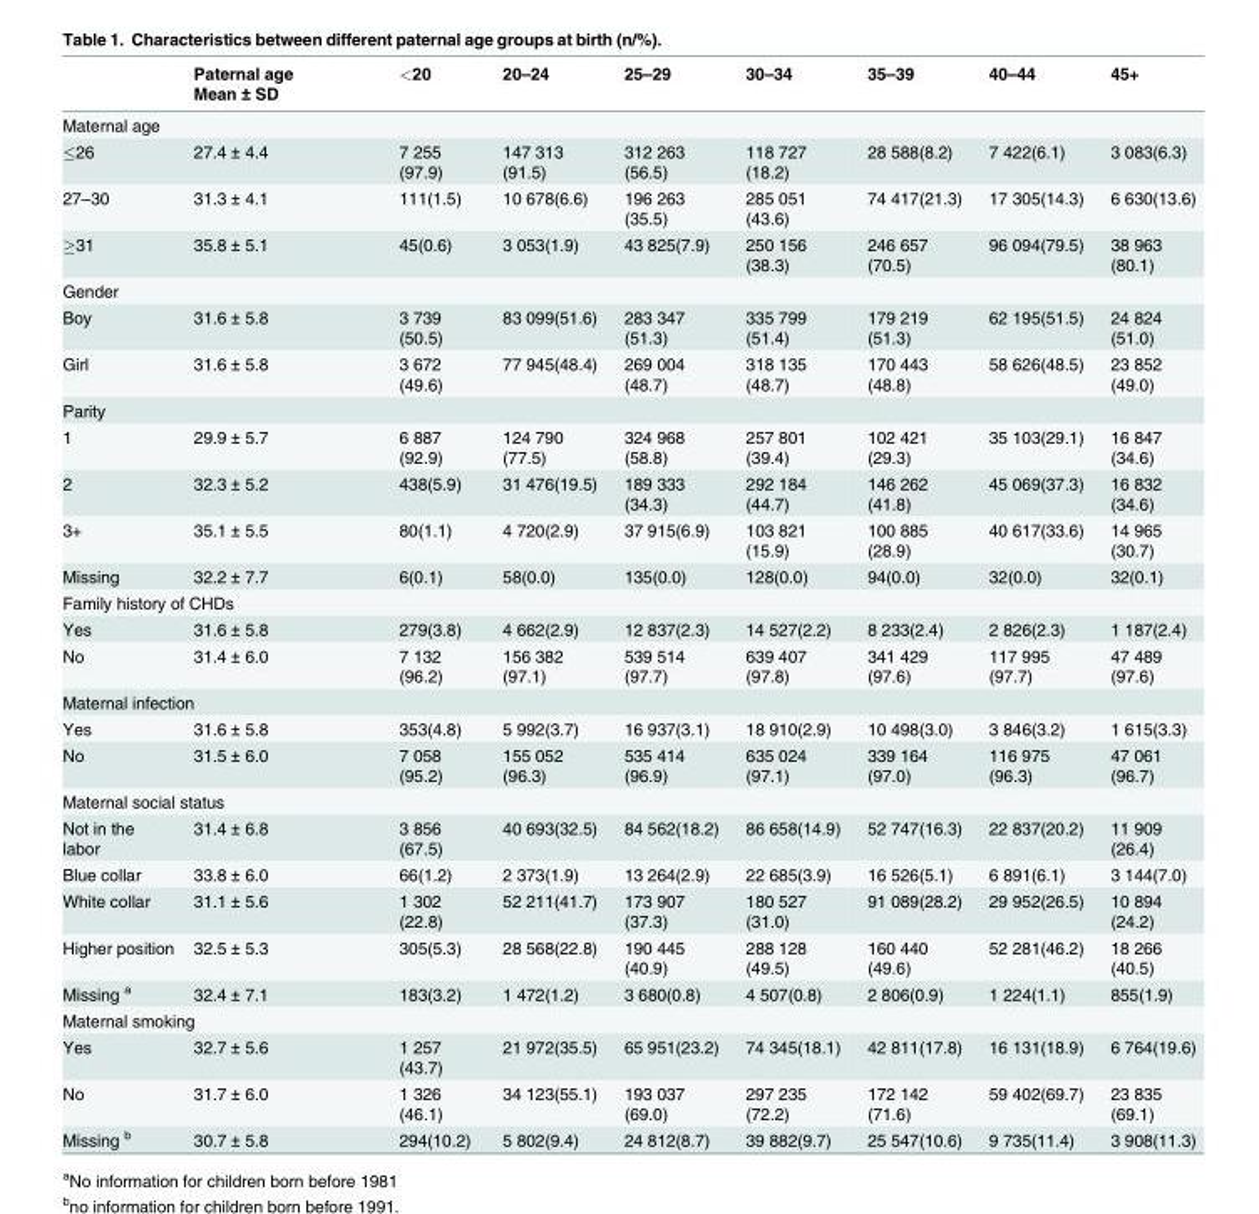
<table><thead><tr><td></td><td>Paternal age Mean ± SD</td><td>&lt;20</td><td>20–24</td><td>25–29</td><td>30–34</td><td>35–39</td><td>40–44</td><td>45+</td></tr></thead><tbody><tr><td colspan="9">Maternal age</td></tr><tr><td>≤26</td><td>27.4 ± 4.4</td><td>7 255 (97.9)</td><td>147 313 (91.5)</td><td>312 263 (56.5)</td><td>118 727 (18.2)</td><td>28 588(8.2)</td><td>7 422(6.1)</td><td>3 083(6.3)</td></tr><tr><td>27–30</td><td>31.3 ± 4.1</td><td>111(1.5)</td><td>10 678(6.6)</td><td>196 263 (35.5)</td><td>285 051 (43.6)</td><td>74 417(21.3)</td><td>17 305(14.3)</td><td>6 630(13.6)</td></tr><tr><td>≥31</td><td>35.8 ± 5.1</td><td>45(0.6)</td><td>3 053(1.9)</td><td>43 825(7.9)</td><td>250 156 (38.3)</td><td>246 657 (70.5)</td><td>96 094(79.5)</td><td>38 963 (80.1)</td></tr><tr><td colspan="9">Gender</td></tr><tr><td>Boy</td><td>31.6 ± 5.8</td><td>3 739 (50.5)</td><td>83 099(51.6)</td><td>283 347 (51.3)</td><td>335 799 (51.4)</td><td>179 219 (51.3)</td><td>62 195(51.5)</td><td>24 824 (51.0)</td></tr><tr><td>Girl</td><td>31.6 ± 5.8</td><td>3 672 (49.6)</td><td>77 945(48.4)</td><td>269 004 (48.7)</td><td>318 135 (48.7)</td><td>170 443 (48.8)</td><td>58 626(48.5)</td><td>23 852 (49.0)</td></tr><tr><td colspan="9">Parity</td></tr><tr><td>1</td><td>29.9 ± 5.7</td><td>6 887 (92.9)</td><td>124 790 (77.5)</td><td>324 968 (58.8)</td><td>257 801 (39.4)</td><td>102 421 (29.3)</td><td>35 103(29.1)</td><td>16 847 (34.6)</td></tr><tr><td>2</td><td>32.3 ± 5.2</td><td>438(5.9)</td><td>31 476(19.5)</td><td>189 333 (34.3)</td><td>292 184 (44.7)</td><td>146 262 (41.8)</td><td>45 069(37.3)</td><td>16 832 (34.6)</td></tr><tr><td>3+</td><td>35.1 ± 5.5</td><td>80(1.1)</td><td>4 720(2.9)</td><td>37 915(6.9)</td><td>103 821 (15.9)</td><td>100 885 (28.9)</td><td>40 617(33.6)</td><td>14 965 (30.7)</td></tr><tr><td>Missing</td><td>32.2 ± 7.7</td><td>6(0.1)</td><td>58(0.0)</td><td>135(0.0)</td><td>128(0.0)</td><td>94(0.0)</td><td>32(0.0)</td><td>32(0.1)</td></tr><tr><td colspan="9">Family history of CHDs</td></tr><tr><td>Yes</td><td>31.6 ± 5.8</td><td>279(3.8)</td><td>4 662(2.9)</td><td>12 837(2.3)</td><td>14 527(2.2)</td><td>8 233(2.4)</td><td>2 826(2.3)</td><td>1 187(2.4)</td></tr><tr><td>No</td><td>31.4 ± 6.0</td><td>7 132 (96.2)</td><td>156 382 (97.1)</td><td>539 514 (97.7)</td><td>639 407 (97.8)</td><td>341 429 (97.6)</td><td>117 995 (97.7)</td><td>47 489 (97.6)</td></tr><tr><td colspan="9">Maternal infection</td></tr><tr><td>Yes</td><td>31.6 ± 5.8</td><td>353(4.8)</td><td>5 992(3.7)</td><td>16 937(3.1)</td><td>18 910(2.9)</td><td>10 498(3.0)</td><td>3 846(3.2)</td><td>1 615(3.3)</td></tr><tr><td>No</td><td>31.5 ± 6.0</td><td>7 058 (95.2)</td><td>155 052 (96.3)</td><td>535 414 (96.9)</td><td>635 024 (97.1)</td><td>339 164 (97.0)</td><td>116 975 (96.3)</td><td>47 061 (96.7)</td></tr><tr><td colspan="9">Maternal social status</td></tr><tr><td>Not in the labor</td><td>31.4 ± 6.8</td><td>3 856 (67.5)</td><td>40 693(32.5)</td><td>84 562(18.2)</td><td>86 658(14.9)</td><td>52 747(16.3)</td><td>22 837(20.2)</td><td>11 909 (26.4)</td></tr><tr><td>Blue collar</td><td>33.8 ± 6.0</td><td>66(1.2)</td><td>2 373(1.9)</td><td>13 264(2.9)</td><td>22 685(3.9)</td><td>16 526(5.1)</td><td>6 891(6.1)</td><td>3 144(7.0)</td></tr><tr><td>White collar</td><td>31.1 ± 5.6</td><td>1 302 (22.8)</td><td>52 211(41.7)</td><td>173 907 (37.3)</td><td>180 527 (31.0)</td><td>91 089(28.2)</td><td>29 952(26.5)</td><td>10 894 (24.2)</td></tr><tr><td>Higher position</td><td>32.5 ± 5.3</td><td>305(5.3)</td><td>28 568(22.8)</td><td>190 445 (40.9)</td><td>288 128 (49.5)</td><td>160 440 (49.6)</td><td>52 281(46.2)</td><td>18 266 (40.5)</td></tr><tr><td>Missing <sup>a</sup></td><td>32.4 ± 7.1</td><td>183(3.2)</td><td>1 472(1.2)</td><td>3 680(0.8)</td><td>4 507(0.8)</td><td>2 806(0.9)</td><td>1 224(1.1)</td><td>855(1.9)</td></tr><tr><td colspan="9">Maternal smoking</td></tr><tr><td>Yes</td><td>32.7 ± 5.6</td><td>1 257 (43.7)</td><td>21 972(35.5)</td><td>65 951(23.2)</td><td>74 345(18.1)</td><td>42 811(17.8)</td><td>16 131(18.9)</td><td>6 764(19.6)</td></tr><tr><td>No</td><td>31.7 ± 6.0</td><td>1 326 (46.1)</td><td>34 123(55.1)</td><td>193 037 (69.0)</td><td>297 235 (72.2)</td><td>172 142 (71.6)</td><td>59 402(69.7)</td><td>23 835 (69.1)</td></tr><tr><td>Missing <sup>b</sup></td><td>30.7 ± 5.8</td><td>294(10.2)</td><td>5 802(9.4)</td><td>24 812(8.7)</td><td>39 882(9.7)</td><td>25 547(10.6)</td><td>9 735(11.4)</td><td>3 908(11.3)</td></tr></tbody></table>